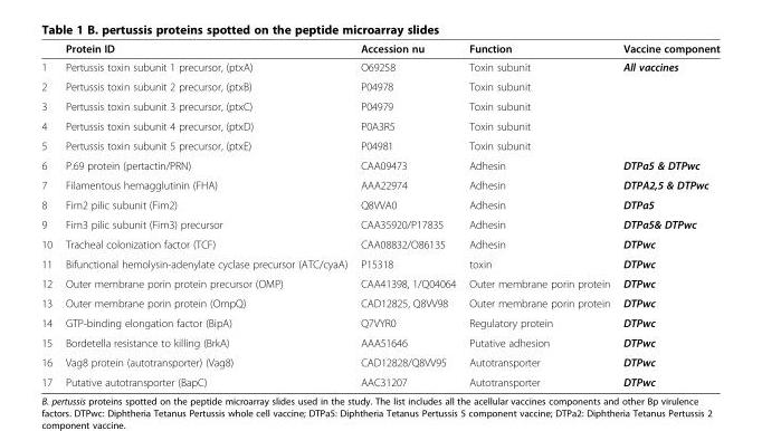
<table><thead><tr><td></td><td>Protein ID</td><td>Accession nu</td><td>Function</td><td>Vaccine component</td></tr></thead><tbody><tr><td>1</td><td>Pertussis toxin subunit 1 precursor, (ptxA)</td><td>O69258</td><td>Toxin subunit</td><td>All vaccines</td></tr><tr><td>2</td><td>Pertussis toxin subunit 2 precursor, (ptxB)</td><td>P04978</td><td>Toxin subunit</td><td></td></tr><tr><td>3</td><td>Pertussis toxin subunit 3 precursor, (ptxC)</td><td>P04979</td><td>Toxin subunit</td><td></td></tr><tr><td>4</td><td>Pertussis toxin subunit 4 precursor, (ptxD)</td><td>P0A3R5</td><td>Toxin subunit</td><td></td></tr><tr><td>5</td><td>Pertussis toxin subunit 5 precursor, (ptxE)</td><td>P04981</td><td>Toxin subunit</td><td></td></tr><tr><td>6</td><td>P.69 protein (pertactin/PRN)</td><td>CAA09473</td><td>Adhesin</td><td>DTPa5 &amp; DTPwc</td></tr><tr><td>7</td><td>Filamentous hemagglutinin (FHA)</td><td>AAA22974</td><td>Adhesin</td><td>DTPA2,5 &amp; DTPwc</td></tr><tr><td>8</td><td>Fim2 pilic subunit (Fim2)</td><td>Q8VVA0</td><td>Adhesin</td><td>DTPa5</td></tr><tr><td>9</td><td>Fim3 pilic subunit (Fim3) precursor</td><td>CAA35920/P17835</td><td>Adhesin</td><td>DTPa5&amp; DTPwc</td></tr><tr><td>10</td><td>Tracheal colonization factor (TCF)</td><td>CAA08832/O86135</td><td>Adhesin</td><td>DTPwc</td></tr><tr><td>11</td><td>Bifunctional hemolysin-adenylate cyclase precursor (ATC/cyaA)</td><td>P15318</td><td>toxin</td><td>DTPwc</td></tr><tr><td>12</td><td>Outer membrane porin protein precursor (OMP)</td><td>CAA41398, 1/Q04064</td><td>Outer membrane porin protein</td><td>DTPwc</td></tr><tr><td>13</td><td>Outer membrane porin protein (OmpQ)</td><td>CAD12825, Q8VV98</td><td>Outer membrane porin protein</td><td>DTPwc</td></tr><tr><td>14</td><td>GTP-binding elongation factor (BipA)</td><td>Q7VYR0</td><td>Regulatory protein</td><td>DTPwc</td></tr><tr><td>15</td><td>Bordetella resistance to killing (BrkA)</td><td>AAA51646</td><td>Putative adhesion</td><td>DTPwc</td></tr><tr><td>16</td><td>Vag8 protein (autotransporter) (Vag8)</td><td>CAD12828/Q8VV95</td><td>Autotransporter</td><td>DTPwc</td></tr><tr><td>17</td><td>Putative autotransporter (BapC)</td><td>AAC31207</td><td>Autotransporter</td><td>DTPwc</td></tr></tbody></table>